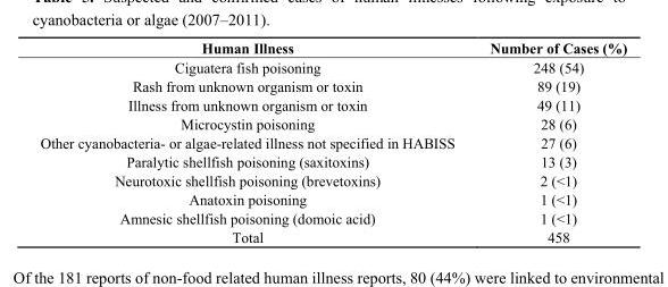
<table><thead><tr><td>Human Illness</td><td>Number of Cases (%)</td></tr></thead><tbody><tr><td>Ciguatera fish poisoning</td><td>248 (54)</td></tr><tr><td>Rash from unknown organism or toxin</td><td>89 (19)</td></tr><tr><td>Illness from unknown organism or toxin</td><td>49 (11)</td></tr><tr><td>Microcystin poisoning</td><td>28 (6)</td></tr><tr><td>Other cyanobacteria- or algae-related illness not specified in HABISS</td><td>27 (6)</td></tr><tr><td>Paralytic shellfish poisoning (saxitoxins)</td><td>13 (3)</td></tr><tr><td>Neurotoxic shellfish poisoning (brevetoxins)</td><td>2 (&lt;1)</td></tr><tr><td>Anatoxin poisoning</td><td>1 (&lt;1)</td></tr><tr><td>Amnesic shellfish poisoning (domoic acid)</td><td>1 (&lt;1)</td></tr><tr><td>Total</td><td>458</td></tr></tbody></table>